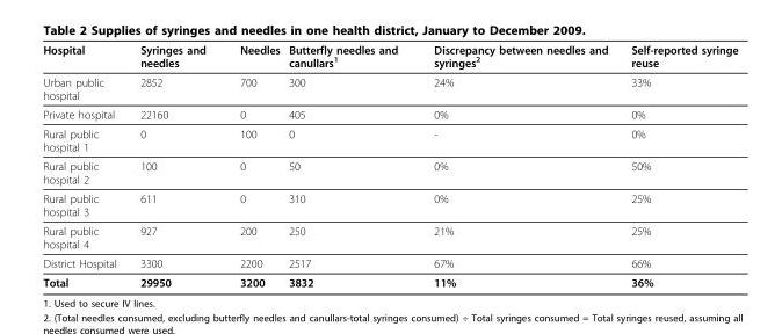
<table><thead><tr><td>Hospital</td><td>Syringes and needles</td><td>Needles</td><td>Butterfly needles and canullars<sup>1</sup></td><td>Discrepancy between needles and syringes<sup>2</sup></td><td>Self-reported syringe reuse</td></tr></thead><tbody><tr><td>Urban public hospital</td><td>2852</td><td>700</td><td>300</td><td>24%</td><td>33%</td></tr><tr><td>Private hospital</td><td>22160</td><td>0</td><td>405</td><td>0%</td><td>0%</td></tr><tr><td>Rural public hospital 1</td><td>0</td><td>100</td><td>0</td><td>-</td><td>0%</td></tr><tr><td>Rural public hospital 2</td><td>100</td><td>0</td><td>50</td><td>0%</td><td>50%</td></tr><tr><td>Rural public hospital 3</td><td>611</td><td>0</td><td>310</td><td>0%</td><td>25%</td></tr><tr><td>Rural public hospital 4</td><td>927</td><td>200</td><td>250</td><td>21%</td><td>25%</td></tr><tr><td>District Hospital</td><td>3300</td><td>2200</td><td>2517</td><td>67%</td><td>66%</td></tr><tr><td>Total</td><td>29950</td><td>3200</td><td>3832</td><td>11%</td><td>36%</td></tr></tbody></table>